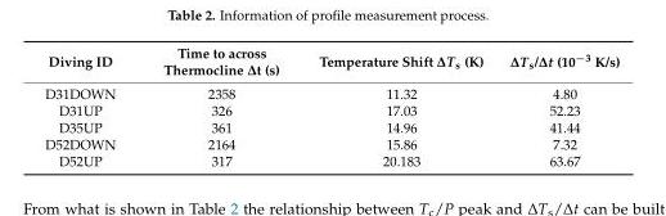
<table><thead><tr><td>Diving ID</td><td>Time to across Thermocline ∆t (s)</td><td>Temperature Shift ∆T<sub>s</sub> (K)</td><td>∆T<sub>s</sub>/∆t (10<sup>−3</sup> K/s)</td></tr></thead><tbody><tr><td>D31DOWN</td><td>2358</td><td>11.32</td><td>4.80</td></tr><tr><td>D31UP</td><td>326</td><td>17.03</td><td>52.23</td></tr><tr><td>D35UP</td><td>361</td><td>14.96</td><td>41.44</td></tr><tr><td>D52DOWN</td><td>2164</td><td>15.86</td><td>7.32</td></tr><tr><td>D52UP</td><td>317</td><td>20.183</td><td>63.67</td></tr></tbody></table>